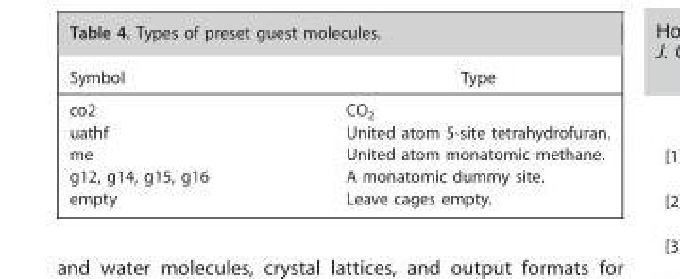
<table><thead><tr><td>Symbol</td><td>Type</td></tr></thead><tbody><tr><td>co2</td><td>CO<sub>2</sub></td></tr><tr><td>uathf</td><td>United atom 5-site tetrahydrofuran.</td></tr><tr><td>me</td><td>United atom monatomic methane.</td></tr><tr><td>g12, g14, g15, g16</td><td>A monatomic dummy site.</td></tr><tr><td>empty</td><td>Leave cages empty.</td></tr></tbody></table>